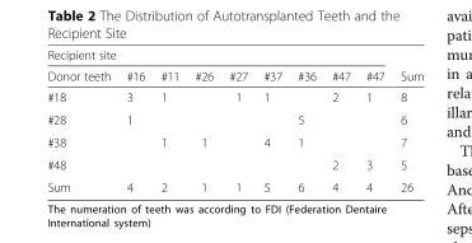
<table><thead><tr><td colspan="9">Recipient site</td><td rowspan="2">Sum</td></tr><tr><td>Donor teeth</td><td>#16</td><td>#11</td><td>#26</td><td>#27</td><td>#37</td><td>#36</td><td>#47</td><td>#47</td></tr></thead><tbody><tr><td>#18</td><td>3</td><td>1</td><td></td><td>1</td><td>1</td><td></td><td>2</td><td>1</td><td>8</td></tr><tr><td>#28</td><td>1</td><td></td><td></td><td></td><td></td><td>5</td><td></td><td></td><td>6</td></tr><tr><td>#38</td><td></td><td>1</td><td>1</td><td></td><td>4</td><td>1</td><td></td><td></td><td>7</td></tr><tr><td>#48</td><td></td><td></td><td></td><td></td><td></td><td></td><td>2</td><td>3</td><td>5</td></tr><tr><td>Sum</td><td>4</td><td>2</td><td>1</td><td>1</td><td>5</td><td>6</td><td>4</td><td>4</td><td>26</td></tr></tbody></table>